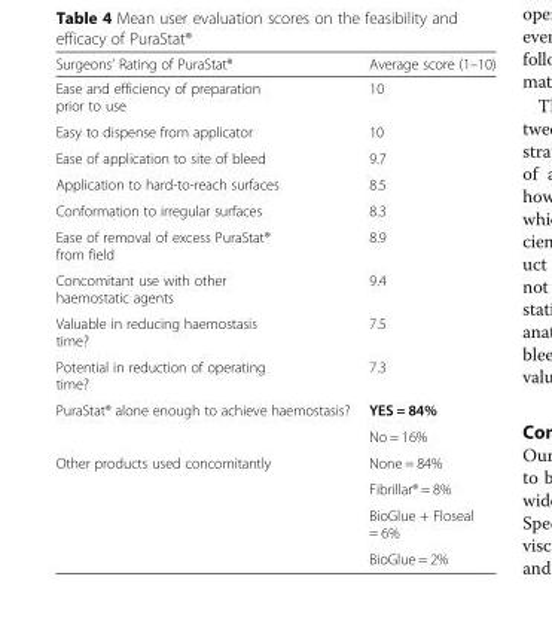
<table><thead><tr><td>Surgeons’ Rating of PuraStat®</td><td>Average score (1–10)</td></tr></thead><tbody><tr><td>Ease and efficiency of preparation prior to use</td><td>10</td></tr><tr><td>Easy to dispense from applicator</td><td>10</td></tr><tr><td>Ease of application to site of bleed</td><td>9.7</td></tr><tr><td>Application to hard-to-reach surfaces</td><td>8.5</td></tr><tr><td>Conformation to irregular surfaces</td><td>8.3</td></tr><tr><td>Ease of removal of excess PuraStat® from field</td><td>8.9</td></tr><tr><td>Concomitant use with other haemostatic agents</td><td>9.4</td></tr><tr><td>Valuable in reducing haemostasis time?</td><td>7.5</td></tr><tr><td>Potential in reduction of operating time?</td><td>7.3</td></tr><tr><td rowspan="2">PuraStat® alone enough to achieve haemostasis?</td><td>YES = 84%</td></tr><tr><td>No = 16%</td></tr><tr><td rowspan="4">Other products used concomitantly</td><td>None = 84%</td></tr><tr><td>Fibrillar® = 8%</td></tr><tr><td>BioGlue + Floseal = 6%</td></tr><tr><td>BioGlue = 2%</td></tr></tbody></table>